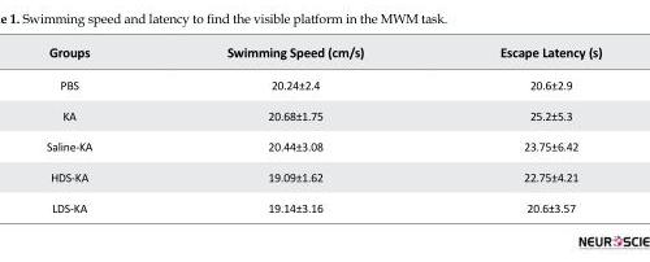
<table><thead><tr><td>Groups</td><td>Swimming Speed (cm/s)</td><td>Escape Latency (s)</td></tr></thead><tbody><tr><td>PBS</td><td>20.24±2.4</td><td>20.6±2.9</td></tr><tr><td>KA</td><td>20.68±1.75</td><td>25.2±5.3</td></tr><tr><td>Saline-KA</td><td>20.44±3.08</td><td>23.75±6.42</td></tr><tr><td>HDS-KA</td><td>19.09±1.62</td><td>22.75±4.21</td></tr><tr><td>LDS-KA</td><td>19.14±3.16</td><td>20.6±3.57</td></tr></tbody></table>